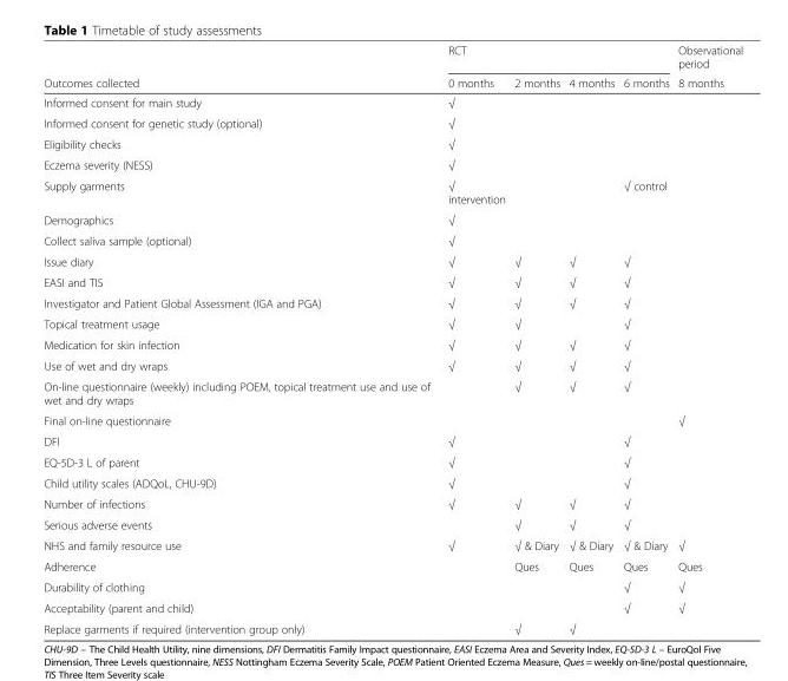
<table><thead><tr><td rowspan="2">Outcomes collected</td><td colspan="4">RCT</td><td rowspan="2">Observational period 8 months</td></tr><tr><td>0 months</td><td>2 months</td><td>4 months</td><td>6 months</td></tr></thead><tbody><tr><td>Informed consent for main study</td><td>√</td><td></td><td></td><td></td><td></td></tr><tr><td>Informed consent for genetic study (optional)</td><td>√</td><td></td><td></td><td></td><td></td></tr><tr><td>Eligibility checks</td><td>√</td><td></td><td></td><td></td><td></td></tr><tr><td>Eczema severity (NESS)</td><td>√</td><td></td><td></td><td></td><td></td></tr><tr><td>Supply garments</td><td>√ intervention</td><td></td><td></td><td>√ control</td><td></td></tr><tr><td>Demographics</td><td>√</td><td></td><td></td><td></td><td></td></tr><tr><td>Collect saliva sample (optional)</td><td>√</td><td></td><td></td><td></td><td></td></tr><tr><td>Issue diary</td><td>√</td><td>√</td><td>√</td><td>√</td><td></td></tr><tr><td>EASI and TIS</td><td>√</td><td>√</td><td>√</td><td>√</td><td></td></tr><tr><td>Investigator and Patient Global Assessment (IGA and PGA)</td><td>√</td><td>√</td><td>√</td><td>√</td><td></td></tr><tr><td>Topical treatment usage</td><td>√</td><td>√</td><td></td><td>√</td><td></td></tr><tr><td>Medication for skin infection</td><td>√</td><td>√</td><td>√</td><td>√</td><td></td></tr><tr><td>Use of wet and dry wraps</td><td>√</td><td>√</td><td>√</td><td>√</td><td></td></tr><tr><td>On-line questionnaire (weekly) including POEM, topical treatment use and use of wet and dry wraps</td><td></td><td>√</td><td>√</td><td>√</td><td></td></tr><tr><td>Final on-line questionnaire</td><td></td><td></td><td></td><td></td><td>√</td></tr><tr><td>DFI</td><td>√</td><td></td><td></td><td>√</td><td></td></tr><tr><td>EQ-5D-3 L of parent</td><td>√</td><td></td><td></td><td>√</td><td></td></tr><tr><td>Child utility scales (ADQoL, CHU-9D)</td><td>√</td><td></td><td></td><td>√</td><td></td></tr><tr><td>Number of infections</td><td>√</td><td>√</td><td>√</td><td>√</td><td></td></tr><tr><td>Serious adverse events</td><td></td><td>√</td><td>√</td><td>√</td><td></td></tr><tr><td>NHS and family resource use</td><td>√</td><td>√ &amp; Diary</td><td>√ &amp; Diary</td><td>√ &amp; Diary</td><td>√</td></tr><tr><td>Adherence</td><td></td><td>Ques</td><td>Ques</td><td>Ques</td><td>Ques</td></tr><tr><td>Durability of clothing</td><td></td><td></td><td></td><td>√</td><td>√</td></tr><tr><td>Acceptability (parent and child)</td><td></td><td></td><td></td><td>√</td><td>√</td></tr><tr><td>Replace garments if required (intervention group only)</td><td></td><td>√</td><td>√</td><td></td><td></td></tr></tbody></table>